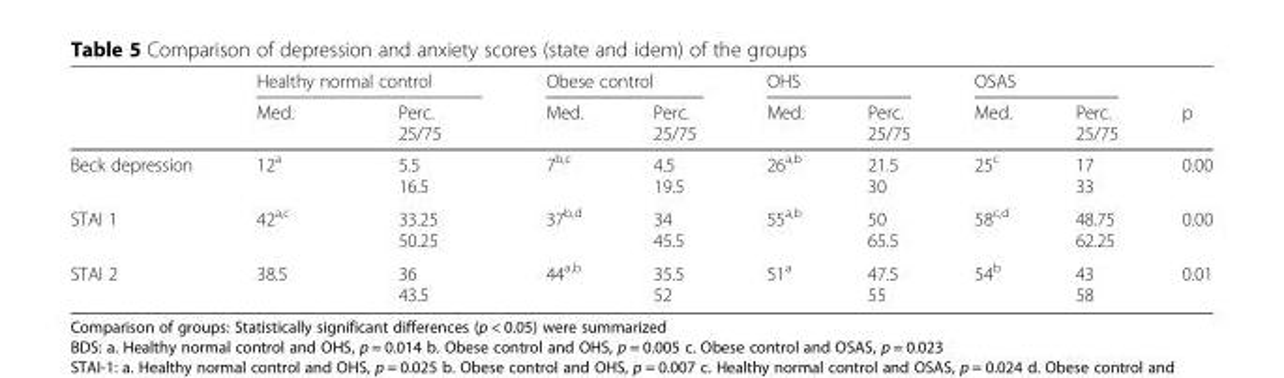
<table><thead><tr><td rowspan="2"></td><td colspan="2">Healthy normal control</td><td colspan="2">Obese control</td><td colspan="2">OHS</td><td colspan="2">OSAS</td><td rowspan="2">p</td></tr><tr><td>Med.</td><td>Perc. 25/75</td><td>Med.</td><td>Perc. 25/75</td><td>Med.</td><td>Perc. 25/75</td><td>Med.</td><td>Perc. 25/75</td></tr></thead><tbody><tr><td>Beck depression</td><td>12<sup>a</sup></td><td>5.5 16.5</td><td>7<sup>b,c</sup></td><td>4.5 19.5</td><td>26<sup>a,b</sup></td><td>21.5 30</td><td>25<sup>c</sup></td><td>17 33</td><td>0.00</td></tr><tr><td>STAI 1</td><td>42<sup>a,c</sup></td><td>33.25 50.25</td><td>37<sup>b,d</sup></td><td>34 45.5</td><td>55<sup>a,b</sup></td><td>50 65.5</td><td>58<sup>c,d</sup></td><td>48.75 62.25</td><td>0.00</td></tr><tr><td>STAI 2</td><td>38.5</td><td>36 43.5</td><td>44<sup>a,b</sup></td><td>35.5 52</td><td>51<sup>a</sup></td><td>47.5 55</td><td>54<sup>b</sup></td><td>43 58</td><td>0.01</td></tr></tbody></table>